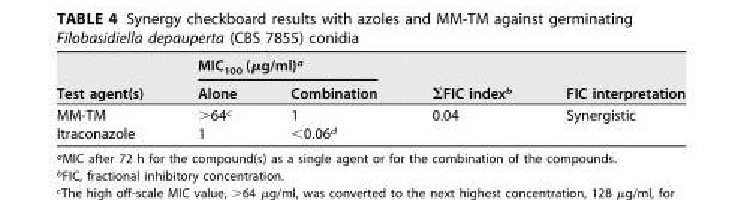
<table><thead><tr><td rowspan="2">Test agent(s)</td><td colspan="2">MIC<sub>100</sub> (µg/ml)<sup>a</sup></td><td rowspan="2">ΣFIC index<sup>b</sup></td><td rowspan="2">FIC interpretation</td></tr><tr><td>Alone</td><td>Combination</td></tr></thead><tbody><tr><td>MM-TM</td><td>&gt;64<sup>c</sup></td><td>1</td><td>0.04</td><td>Synergistic</td></tr><tr><td>Itraconazole</td><td>1</td><td>&lt;0.06<sup>d</sup></td><td></td><td></td></tr></tbody></table>